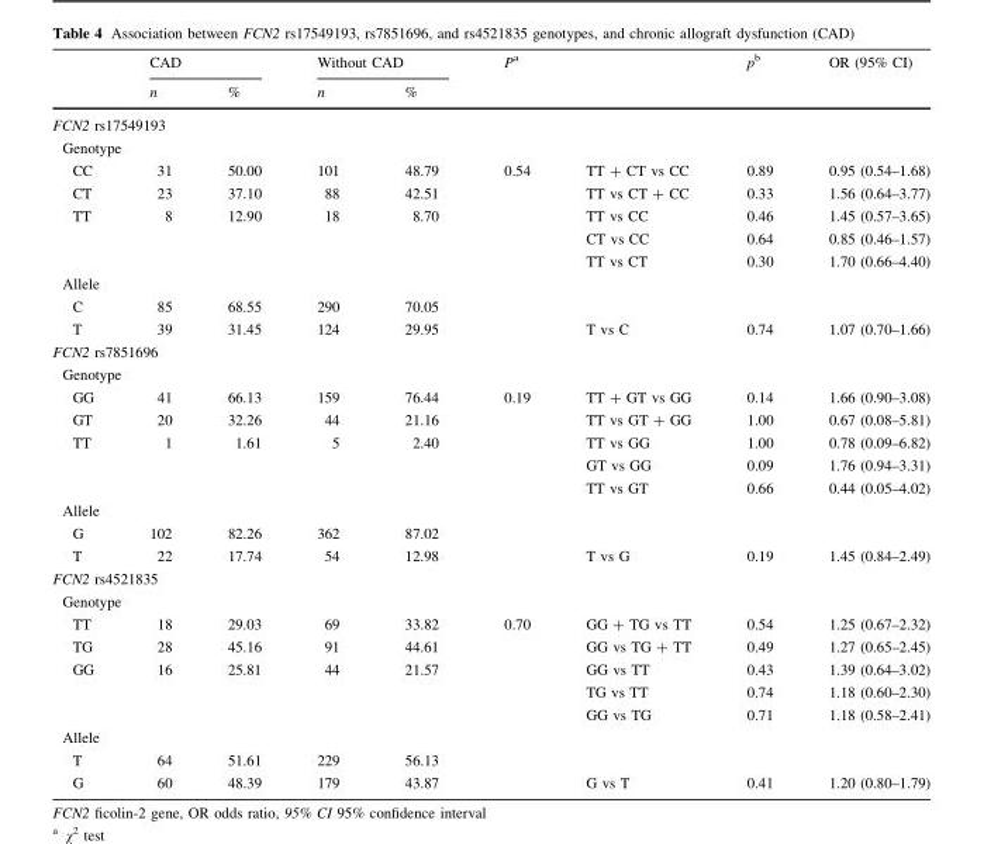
<table><thead><tr><td rowspan="2"></td><td colspan="2">CAD</td><td colspan="2">Without CAD</td><td rowspan="2">P<sup>a</sup></td><td rowspan="2"></td><td rowspan="2">p<sup>b</sup></td><td rowspan="2">OR (95% CI)</td></tr><tr><td>n</td><td>%</td><td>n</td><td>%</td></tr></thead><tbody><tr><td colspan="9">FCN2 rs17549193</td></tr><tr><td colspan="9">Genotype</td></tr><tr><td>CC</td><td>31</td><td>50.00</td><td>101</td><td>48.79</td><td rowspan="3">0.54</td><td>TT + CT vs CC</td><td>0.89</td><td>0.95 (0.54–1.68)</td></tr><tr><td>CT</td><td>23</td><td>37.10</td><td>88</td><td>42.51</td><td>TT vs CT + CC</td><td>0.33</td><td>1.56 (0.64–3.77)</td></tr><tr><td rowspan="3">TT</td><td>8</td><td>12.90</td><td>18</td><td>8.70</td><td>TT vs CC</td><td>0.46</td><td>1.45 (0.57–3.65)</td></tr><tr><td></td><td></td><td></td><td></td><td></td><td>CT vs CC</td><td>0.64</td><td>0.85 (0.46–1.57)</td></tr><tr><td></td><td></td><td></td><td></td><td></td><td>TT vs CT</td><td>0.30</td><td>1.70 (0.66–4.40)</td></tr><tr><td colspan="9">Allele</td></tr><tr><td>C</td><td>85</td><td>68.55</td><td>290</td><td>70.05</td><td></td><td></td><td></td><td></td></tr><tr><td>T</td><td>39</td><td>31.45</td><td>124</td><td>29.95</td><td></td><td>T vs C</td><td>0.74</td><td>1.07 (0.70–1.66)</td></tr><tr><td colspan="9">FCN2 rs7851696</td></tr><tr><td colspan="9">Genotype</td></tr><tr><td>GG</td><td>41</td><td>66.13</td><td>159</td><td>76.44</td><td rowspan="3">0.19</td><td>TT + GT vs GG</td><td>0.14</td><td>1.66 (0.90–3.08)</td></tr><tr><td>GT</td><td>20</td><td>32.26</td><td>44</td><td>21.16</td><td>TT vs GT + GG</td><td>1.00</td><td>0.67 (0.08–5.81)</td></tr><tr><td rowspan="3">TT</td><td>1</td><td>1.61</td><td>5</td><td>2.40</td><td>TT vs GG</td><td>1.00</td><td>0.78 (0.09–6.82)</td></tr><tr><td></td><td></td><td></td><td></td><td></td><td>GT vs GG</td><td>0.09</td><td>1.76 (0.94–3.31)</td></tr><tr><td></td><td></td><td></td><td></td><td></td><td>TT vs GT</td><td>0.66</td><td>0.44 (0.05–4.02)</td></tr><tr><td colspan="9">Allele</td></tr><tr><td>G</td><td>102</td><td>82.26</td><td>362</td><td>87.02</td><td></td><td></td><td></td><td></td></tr><tr><td>T</td><td>22</td><td>17.74</td><td>54</td><td>12.98</td><td></td><td>T vs G</td><td>0.19</td><td>1.45 (0.84–2.49)</td></tr><tr><td colspan="9">FCN2 rs4521835</td></tr><tr><td colspan="9">Genotype</td></tr><tr><td>TT</td><td>18</td><td>29.03</td><td>69</td><td>33.82</td><td rowspan="3">0.70</td><td>GG + TG vs TT</td><td>0.54</td><td>1.25 (0.67–2.32)</td></tr><tr><td>TG</td><td>28</td><td>45.16</td><td>91</td><td>44.61</td><td>GG vs TG + TT</td><td>0.49</td><td>1.27 (0.65–2.45)</td></tr><tr><td rowspan="3">GG</td><td>16</td><td>25.81</td><td>44</td><td>21.57</td><td>GG vs TT</td><td>0.43</td><td>1.39 (0.64–3.02)</td></tr><tr><td></td><td></td><td></td><td></td><td></td><td>TG vs TT</td><td>0.74</td><td>1.18 (0.60–2.30)</td></tr><tr><td></td><td></td><td></td><td></td><td></td><td>GG vs TG</td><td>0.71</td><td>1.18 (0.58–2.41)</td></tr><tr><td colspan="9">Allele</td></tr><tr><td>T</td><td>64</td><td>51.61</td><td>229</td><td>56.13</td><td></td><td></td><td></td><td></td></tr><tr><td>G</td><td>60</td><td>48.39</td><td>179</td><td>43.87</td><td></td><td>G vs T</td><td>0.41</td><td>1.20 (0.80–1.79)</td></tr></tbody></table>